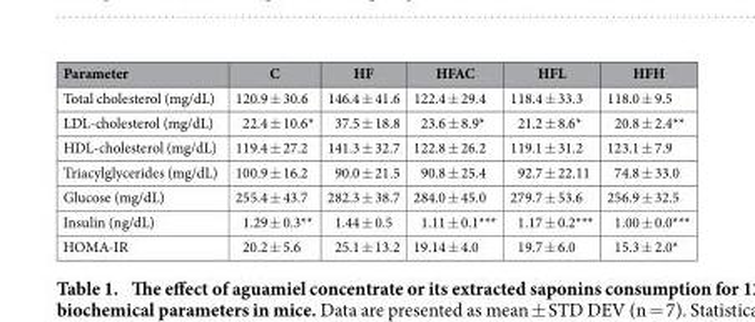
<table><thead><tr><td>Parameter</td><td>C</td><td>HF</td><td>HFAC</td><td>HFL</td><td>HFH</td></tr></thead><tbody><tr><td>Total cholesterol (mg/dL)</td><td>120.9 ± 30.6</td><td>146.4 ± 41.6</td><td>122.4 ± 29.4</td><td>118.4 ± 33.3</td><td>118.0 ± 9.5</td></tr><tr><td>LDL-cholesterol (mg/dL)</td><td>22.4 ± 10.6*</td><td>37.5 ± 18.8</td><td>23.6 ± 8.9*</td><td>21.2 ± 8.6*</td><td>20.8 ± 2.4**</td></tr><tr><td>HDL-cholesterol (mg/dL)</td><td>119.4 ± 27.2</td><td>141.3 ± 32.7</td><td>122.8 ± 26.2</td><td>119.1 ± 31.2</td><td>123.1 ± 7.9</td></tr><tr><td>Triacylglycerides (mg/dL)</td><td>100.9 ± 16.2</td><td>90.0 ± 21.5</td><td>90.8 ± 25.4</td><td>92.7 ± 22.11</td><td>74.8 ± 33.0</td></tr><tr><td>Glucose (mg/dL)</td><td>255.4 ± 43.7</td><td>282.3 ± 38.7</td><td>284.0 ± 45.0</td><td>279.7 ± 53.6</td><td>256.9 ± 32.5</td></tr><tr><td>Insulin (ng/dL)</td><td>1.29 ± 0.3**</td><td>1.44 ± 0.5</td><td>1.11 ± 0.1***</td><td>1.17 ± 0.2***</td><td>1.00 ± 0.0***</td></tr><tr><td>HOMA-IR</td><td>20.2 ± 5.6</td><td>25.1 ± 13.2</td><td>19.14 ± 4.0</td><td>19.7 ± 6.0</td><td>15.3 ± 2.0*</td></tr></tbody></table>